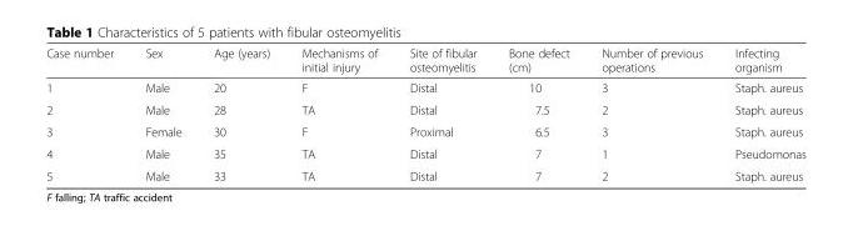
<table><thead><tr><td>Case number</td><td>Sex</td><td>Age (years)</td><td>Mechanisms of initial injury</td><td>Site of fibular osteomyelitis</td><td>Bone defect (cm)</td><td>Number of previous operations</td><td>Infecting organism</td></tr></thead><tbody><tr><td>1</td><td>Male</td><td>20</td><td>F</td><td>Distal</td><td>10</td><td>3</td><td>Staph. aureus</td></tr><tr><td>2</td><td>Male</td><td>28</td><td>TA</td><td>Distal</td><td>7.5</td><td>2</td><td>Staph. aureus</td></tr><tr><td>3</td><td>Female</td><td>30</td><td>F</td><td>Proximal</td><td>6.5</td><td>3</td><td>Staph. aureus</td></tr><tr><td>4</td><td>Male</td><td>35</td><td>TA</td><td>Distal</td><td>7</td><td>1</td><td>Pseudomonas</td></tr><tr><td>5</td><td>Male</td><td>33</td><td>TA</td><td>Distal</td><td>7</td><td>2</td><td>Staph. aureus</td></tr></tbody></table>